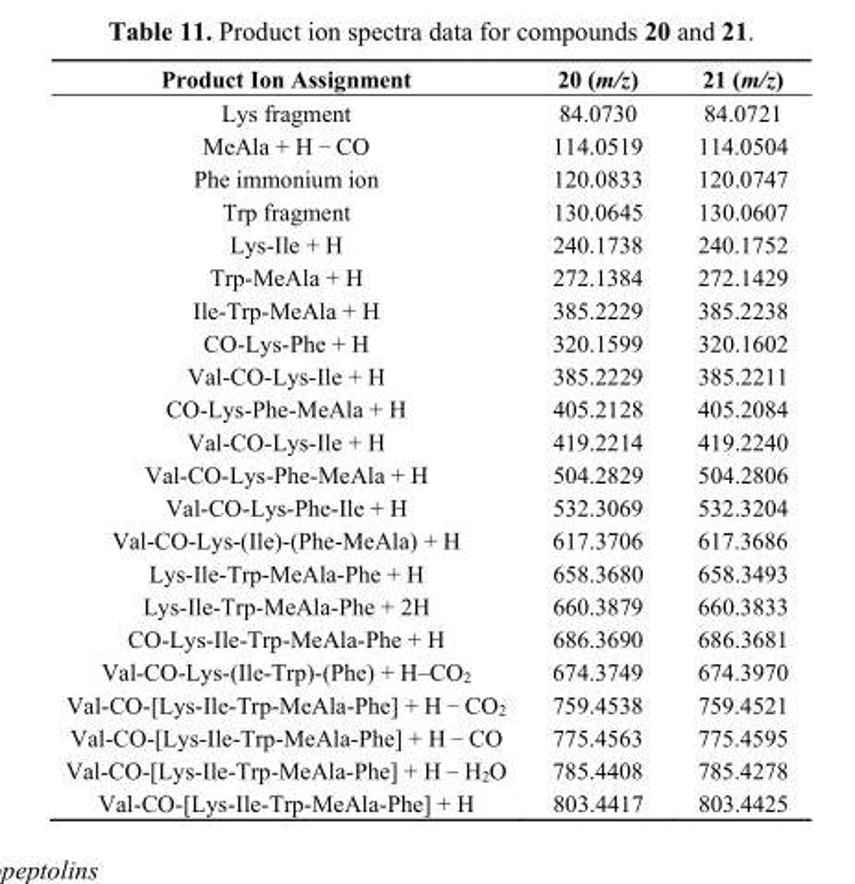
<table><thead><tr><td>Product Ion Assignment</td><td>20 (m/z)</td><td>21 (m/z)</td></tr></thead><tbody><tr><td>Lys fragment</td><td>84.0730</td><td>84.0721</td></tr><tr><td>MeAla + H − CO</td><td>114.0519</td><td>114.0504</td></tr><tr><td>Phe immonium ion</td><td>120.0833</td><td>120.0747</td></tr><tr><td>Trp fragment</td><td>130.0645</td><td>130.0607</td></tr><tr><td>Lys-Ile + H</td><td>240.1738</td><td>240.1752</td></tr><tr><td>Trp-MeAla + H</td><td>272.1384</td><td>272.1429</td></tr><tr><td>Ile-Trp-MeAla + H</td><td>385.2229</td><td>385.2238</td></tr><tr><td>CO-Lys-Phe + H</td><td>320.1599</td><td>320.1602</td></tr><tr><td>Val-CO-Lys-Ile + H</td><td>385.2229</td><td>385.2211</td></tr><tr><td>CO-Lys-Phe-MeAla + H</td><td>405.2128</td><td>405.2084</td></tr><tr><td>Val-CO-Lys-Ile + H</td><td>419.2214</td><td>419.2240</td></tr><tr><td>Val-CO-Lys-Phe-MeAla + H</td><td>504.2829</td><td>504.2806</td></tr><tr><td>Val-CO-Lys-Phe-Ile + H</td><td>532.3069</td><td>532.3204</td></tr><tr><td>Val-CO-Lys-(Ile)-(Phe-MeAla) + H</td><td>617.3706</td><td>617.3686</td></tr><tr><td>Lys-Ile-Trp-MeAla-Phe + H</td><td>658.3680</td><td>658.3493</td></tr><tr><td>Lys-Ile-Trp-MeAla-Phe + 2H</td><td>660.3879</td><td>660.3833</td></tr><tr><td>CO-Lys-Ile-Trp-MeAla-Phe + H</td><td>686.3690</td><td>686.3681</td></tr><tr><td>Val-CO-Lys-(Ile-Trp)-(Phe) + H–CO<sub>2</sub></td><td>674.3749</td><td>674.3970</td></tr><tr><td>Val-CO-[Lys-Ile-Trp-MeAla-Phe] + H − CO<sub>2</sub></td><td>759.4538</td><td>759.4521</td></tr><tr><td>Val-CO-[Lys-Ile-Trp-MeAla-Phe] + H − CO</td><td>775.4563</td><td>775.4595</td></tr><tr><td>Val-CO-[Lys-Ile-Trp-MeAla-Phe] + H − H<sub>2</sub>O</td><td>785.4408</td><td>785.4278</td></tr><tr><td>Val-CO-[Lys-Ile-Trp-MeAla-Phe] + H</td><td>803.4417</td><td>803.4425</td></tr></tbody></table>